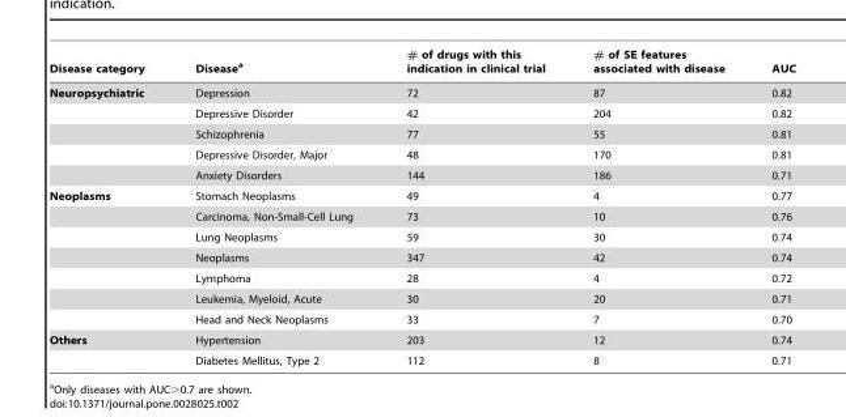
<table><thead><tr><td>Disease category</td><td>Disease<sup>a</sup></td><td># of drugs with this indication in clinical trial</td><td># of SE features associated with disease</td><td>AUC</td></tr></thead><tbody><tr><td rowspan="5">Neuropsychiatric</td><td>Depression</td><td>72</td><td>87</td><td>0.82</td></tr><tr><td>Depressive Disorder</td><td>42</td><td>204</td><td>0.82</td></tr><tr><td>Schizophrenia</td><td>77</td><td>55</td><td>0.81</td></tr><tr><td>Depressive Disorder, Major</td><td>48</td><td>170</td><td>0.81</td></tr><tr><td>Anxiety Disorders</td><td>144</td><td>186</td><td>0.71</td></tr><tr><td rowspan="7">Neoplasms</td><td>Stomach Neoplasms</td><td>49</td><td>4</td><td>0.77</td></tr><tr><td>Carcinoma, Non-Small-Cell Lung</td><td>73</td><td>10</td><td>0.76</td></tr><tr><td>Lung Neoplasms</td><td>59</td><td>30</td><td>0.74</td></tr><tr><td>Neoplasms</td><td>347</td><td>42</td><td>0.74</td></tr><tr><td>Lymphoma</td><td>28</td><td>4</td><td>0.72</td></tr><tr><td>Leukemia, Myeloid, Acute</td><td>30</td><td>20</td><td>0.71</td></tr><tr><td>Head and Neck Neoplasms</td><td>33</td><td>7</td><td>0.70</td></tr><tr><td rowspan="2">Others</td><td>Hypertension</td><td>203</td><td>12</td><td>0.74</td></tr><tr><td>Diabetes Mellitus, Type 2</td><td>112</td><td>8</td><td>0.71</td></tr></tbody></table>